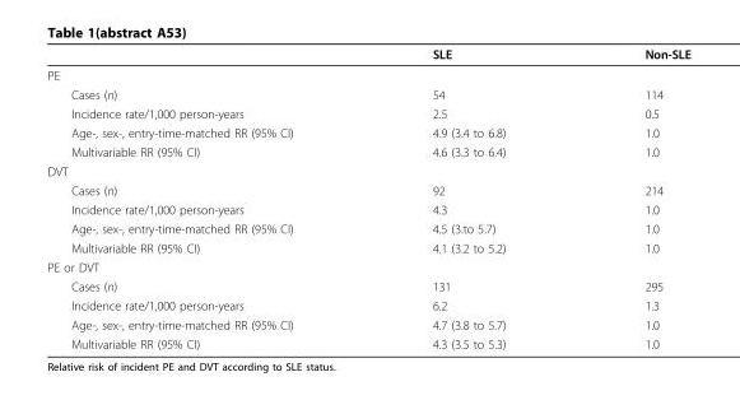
<table><thead><tr><td></td><td>SLE</td><td>Non-SLE</td></tr></thead><tbody><tr><td colspan="3">PE</td></tr><tr><td>Cases (n)</td><td>54</td><td>114</td></tr><tr><td>Incidence rate/1,000 person-years</td><td>2.5</td><td>0.5</td></tr><tr><td>Age-, sex-, entry-time-matched RR (95% CI)</td><td>4.9 (3.4 to 6.8)</td><td>1.0</td></tr><tr><td>Multivariable RR (95% CI)</td><td>4.6 (3.3 to 6.4)</td><td>1.0</td></tr><tr><td colspan="3">DVT</td></tr><tr><td>Cases (n)</td><td>92</td><td>214</td></tr><tr><td>Incidence rate/1,000 person-years</td><td>4.3</td><td>1.0</td></tr><tr><td>Age-, sex-, entry-time-matched RR (95% CI)</td><td>4.5 (3.to 5.7)</td><td>1.0</td></tr><tr><td>Multivariable RR (95% CI)</td><td>4.1 (3.2 to 5.2)</td><td>1.0</td></tr><tr><td colspan="3">PE or DVT</td></tr><tr><td>Cases (n)</td><td>131</td><td>295</td></tr><tr><td>Incidence rate/1,000 person-years</td><td>6.2</td><td>1.3</td></tr><tr><td>Age-, sex-, entry-time-matched RR (95% CI)</td><td>4.7 (3.8 to 5.7)</td><td>1.0</td></tr><tr><td>Multivariable RR (95% CI)</td><td>4.3 (3.5 to 5.3)</td><td>1.0</td></tr></tbody></table>